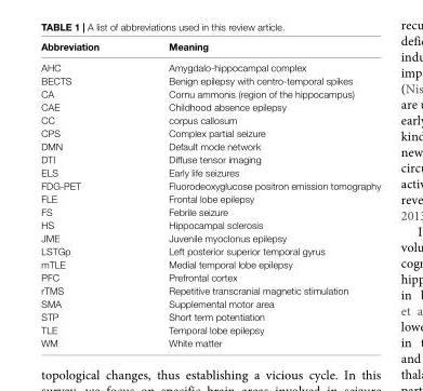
<table><thead><tr><td>Abbreviation</td><td>Meaning</td></tr></thead><tbody><tr><td>AHC</td><td>Amygdalo-hippocampal complex</td></tr><tr><td>BECTS</td><td>Benign epilepsy with centro-temporal spikes</td></tr><tr><td>CA</td><td>Cornu ammonis (region of the hippocampus)</td></tr><tr><td>CAE</td><td>Childhood absence epilepsy</td></tr><tr><td>CC</td><td>corpus callosum</td></tr><tr><td>CPS</td><td>Complex partial seizure</td></tr><tr><td>DMN</td><td>Default mode network</td></tr><tr><td>DTI</td><td>Diffuse tensor imaging</td></tr><tr><td>ELS</td><td>Early life seizures</td></tr><tr><td>FDG-PET</td><td>Fluorodeoxyglucose positron emission tomography</td></tr><tr><td>FLE</td><td>Frontal lobe epilepsy</td></tr><tr><td>FS</td><td>Febrile seizure</td></tr><tr><td>HS</td><td>Hippocampal sclerosis</td></tr><tr><td>JME</td><td>Juvenile myoclonus epilepsy</td></tr><tr><td>LSTGp</td><td>Left posterior superior temporal gyrus</td></tr><tr><td>mTLE</td><td>Medial temporal lobe epilepsy</td></tr><tr><td>PFC</td><td>Prefrontal cortex</td></tr><tr><td>rTMS</td><td>Repetitive transcranial magnetic stimulation</td></tr><tr><td>SMA</td><td>Supplemental motor area</td></tr><tr><td>STP</td><td>Short term potentiation</td></tr><tr><td>TLE</td><td>Temporal lobe epilepsy</td></tr><tr><td>WM</td><td>White matter</td></tr></tbody></table>